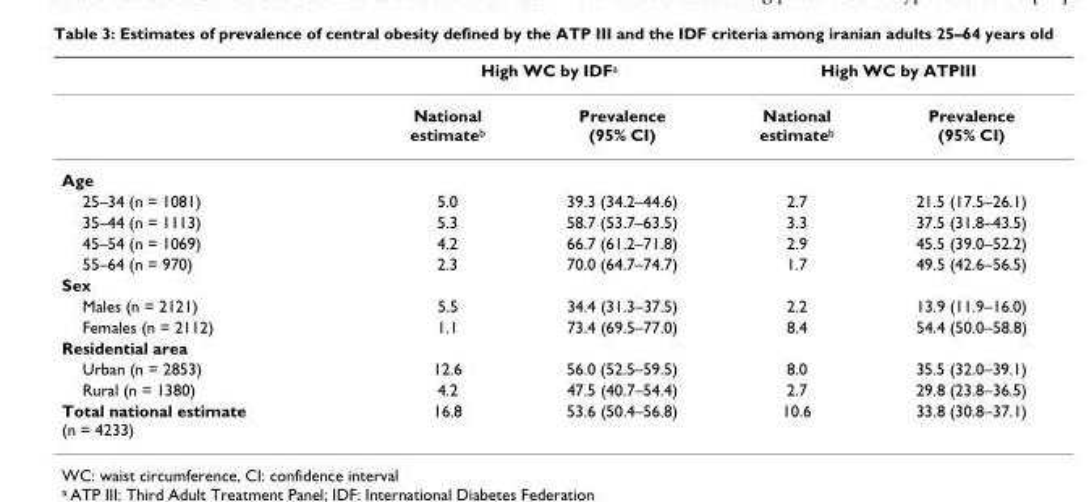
<table><thead><tr><td rowspan="2"></td><td colspan="2">High WC by IDF<sup>a</sup></td><td colspan="2">High WC by ATPIII</td></tr><tr><td>National estimate<sup>b</sup></td><td>Prevalence (95% CI)</td><td>National estimate<sup>b</sup></td><td>Prevalence (95% CI)</td></tr></thead><tbody><tr><td colspan="5">Age</td></tr><tr><td>25–34 (n = 1081)</td><td>5.0</td><td>39.3 (34.2–44.6)</td><td>2.7</td><td>21.5 (17.5–26.1)</td></tr><tr><td>35–44 (n = 1113)</td><td>5.3</td><td>58.7 (53.7–63.5)</td><td>3.3</td><td>37.5 (31.8–43.5)</td></tr><tr><td>45–54 (n = 1069)</td><td>4.2</td><td>66.7 (61.2–71.8)</td><td>2.9</td><td>45.5 (39.0–52.2)</td></tr><tr><td>55–64 (n = 970)</td><td>2.3</td><td>70.0 (64.7–74.7)</td><td>1.7</td><td>49.5 (42.6–56.5)</td></tr><tr><td colspan="5">Sex</td></tr><tr><td>Males (n = 2121)</td><td>5.5</td><td>34.4 (31.3–37.5)</td><td>2.2</td><td>13.9 (11.9–16.0)</td></tr><tr><td>Females (n = 2112)</td><td>1.1</td><td>73.4 (69.5–77.0)</td><td>8.4</td><td>54.4 (50.0–58.8)</td></tr><tr><td colspan="5">Residential area</td></tr><tr><td>Urban (n = 2853)</td><td>12.6</td><td>56.0 (52.5–59.5)</td><td>8.0</td><td>35.5 (32.0–39.1)</td></tr><tr><td>Rural (n = 1380)</td><td>4.2</td><td>47.5 (40.7–54.4)</td><td>2.7</td><td>29.8 (23.8–36.5)</td></tr><tr><td>Total national estimate (n = 4233)</td><td>16.8</td><td>53.6 (50.4–56.8)</td><td>10.6</td><td>33.8 (30.8–37.1)</td></tr></tbody></table>